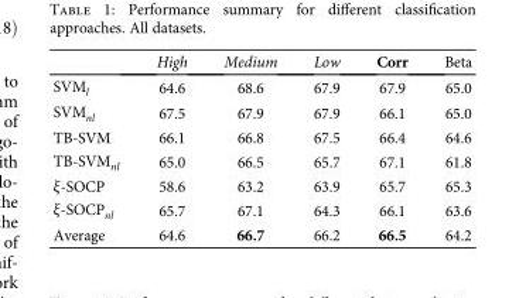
<table><thead><tr><td></td><td>High</td><td>Medium</td><td>Low</td><td>Corr</td><td>Beta</td></tr></thead><tbody><tr><td>SVM<sub>l</sub></td><td>64.6</td><td>68.6</td><td>67.9</td><td>67.9</td><td>65.0</td></tr><tr><td>SVM<sub>nl</sub></td><td>67.5</td><td>67.9</td><td>67.9</td><td>66.1</td><td>65.0</td></tr><tr><td>TB-SVM</td><td>66.1</td><td>66.8</td><td>67.5</td><td>66.4</td><td>64.6</td></tr><tr><td>TB-SVM<sub>nl</sub></td><td>65.0</td><td>66.5</td><td>65.7</td><td>67.1</td><td>61.8</td></tr><tr><td>ξ-SOCP</td><td>58.6</td><td>63.2</td><td>63.9</td><td>65.7</td><td>65.3</td></tr><tr><td>ξ-SOCP<sub>nl</sub></td><td>65.7</td><td>67.1</td><td>64.3</td><td>66.1</td><td>63.6</td></tr><tr><td>Average</td><td>64.6</td><td>66.7</td><td>66.2</td><td>66.5</td><td>64.2</td></tr></tbody></table>